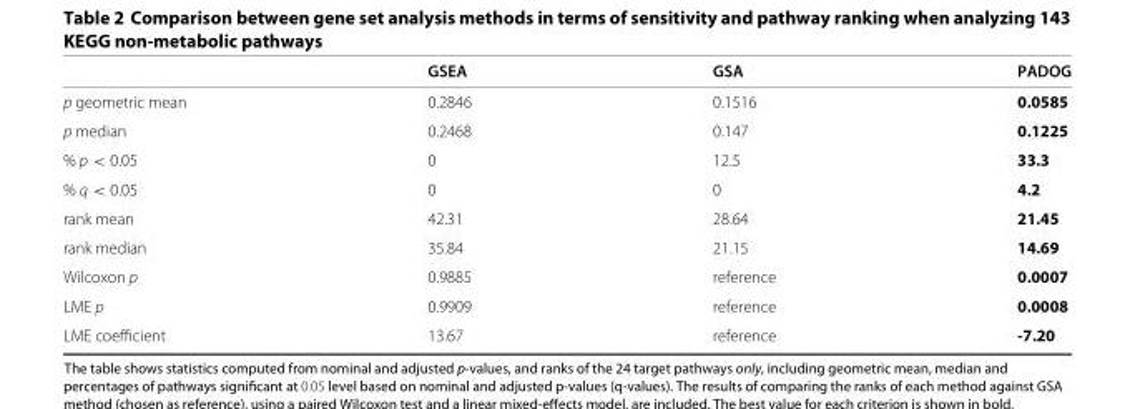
<table><thead><tr><td></td><td>GSEA</td><td>GSA</td><td>PADOG</td></tr></thead><tbody><tr><td>p geometric mean</td><td>0.2846</td><td>0.1516</td><td>0.0585</td></tr><tr><td>p median</td><td>0.2468</td><td>0.147</td><td>0.1225</td></tr><tr><td>% p &lt; 0.05</td><td>0</td><td>12.5</td><td>33.3</td></tr><tr><td>% q &lt; 0.05</td><td>0</td><td>0</td><td>4.2</td></tr><tr><td>rank mean</td><td>42.31</td><td>28.64</td><td>21.45</td></tr><tr><td>rank median</td><td>35.84</td><td>21.15</td><td>14.69</td></tr><tr><td>Wilcoxon p</td><td>0.9885</td><td>reference</td><td>0.0007</td></tr><tr><td>LME p</td><td>0.9909</td><td>reference</td><td>0.0008</td></tr><tr><td>LME coefficient</td><td>13.67</td><td>reference</td><td>-7.20</td></tr></tbody></table>